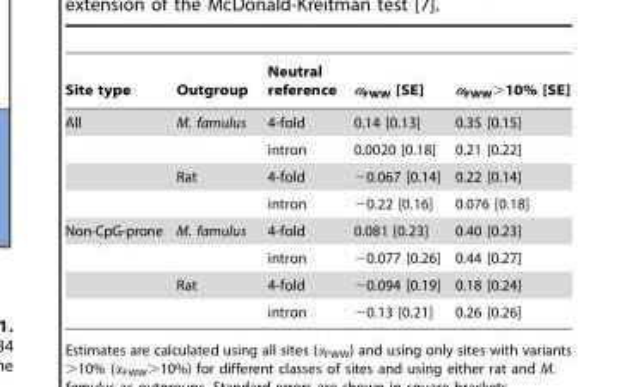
<table><thead><tr><td>Site type</td><td>Outgroup</td><td>Neutral reference</td><td>α<sub>FWW</sub> [SE]</td><td>α<sub>FWW</sub>&gt;10% [SE]</td></tr></thead><tbody><tr><td rowspan="4">All</td><td>M. famulus</td><td>4-fold</td><td>0.14 [0.13]</td><td>0.35 [0.15]</td></tr><tr><td></td><td>intron</td><td>0.0020 [0.18]</td><td>0.21 [0.22]</td></tr><tr><td>Rat</td><td>4-fold</td><td>−0.067 [0.14]</td><td>0.22 [0.14]</td></tr><tr><td></td><td>intron</td><td>−0.22 [0.16]</td><td>0.076 [0.18]</td></tr><tr><td rowspan="4">Non-CpG-prone</td><td>M. famulus</td><td>4-fold</td><td>0.081 [0.23]</td><td>0.40 [0.23]</td></tr><tr><td></td><td>intron</td><td>−0.077 [0.26]</td><td>0.44 [0.27]</td></tr><tr><td>Rat</td><td>4-fold</td><td>−0.094 [0.19]</td><td>0.18 [0.24]</td></tr><tr><td></td><td>intron</td><td>−0.13 [0.21]</td><td>0.26 [0.26]</td></tr></tbody></table>